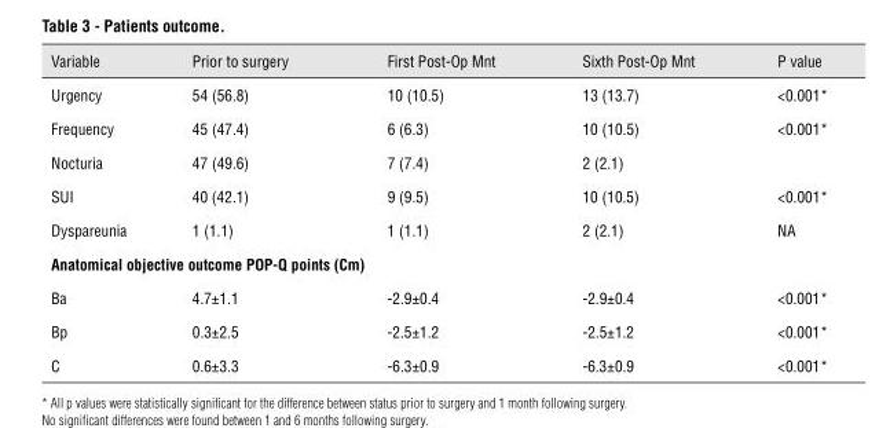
<table><thead><tr><td>Variable</td><td>Prior to surgery</td><td>First Post-Op Mnt</td><td>Sixth Post-Op Mnt</td><td>P value</td></tr></thead><tbody><tr><td>Urgency</td><td>54 (56.8)</td><td>10 (10.5)</td><td>13 (13.7)</td><td>&lt;0.001*</td></tr><tr><td>Frequency</td><td>45 (47.4)</td><td>6 (6.3)</td><td>10 (10.5)</td><td>&lt;0.001*</td></tr><tr><td>Nocturia</td><td>47 (49.6)</td><td>7 (7.4)</td><td>2 (2.1)</td><td></td></tr><tr><td>SUI</td><td>40 (42.1)</td><td>9 (9.5)</td><td>10 (10.5)</td><td>&lt;0.001*</td></tr><tr><td>Dyspareunia</td><td>1 (1.1)</td><td>1 (1.1)</td><td>2 (2.1)</td><td>NA</td></tr><tr><td colspan="5">Anatomical objective outcome pOp-Q points (Cm)</td></tr><tr><td>Ba</td><td>4.7±1.1</td><td>-2.9±0.4</td><td>-2.9±0.4</td><td>&lt;0.001*</td></tr><tr><td>Bp</td><td>0.3±2.5</td><td>-2.5±1.2</td><td>-2.5±1.2</td><td>&lt;0.001*</td></tr><tr><td>C</td><td>0.6±3.3</td><td>-6.3±0.9</td><td>-6.3±0.9</td><td>&lt;0.001*</td></tr></tbody></table>